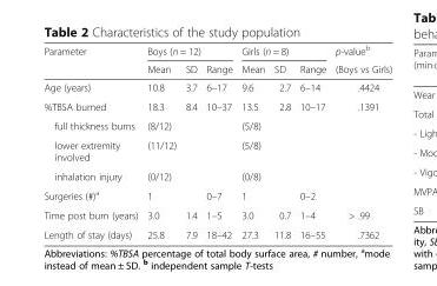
<table><thead><tr><td rowspan="2">Parameter</td><td colspan="3">Boys (n = 12)</td><td colspan="3">Girls (n = 8)</td><td rowspan="2">p-value<sup>b</sup> (Boys vs Girls)</td></tr><tr><td>Mean</td><td>SD</td><td>Range</td><td>Mean</td><td>SD</td><td>Range</td></tr></thead><tbody><tr><td>Age (years)</td><td>10.8</td><td>3.7</td><td>6–17</td><td>9.6</td><td>2.7</td><td>6–14</td><td>.4424</td></tr><tr><td>%TBSA burned</td><td>18.3</td><td>8.4</td><td>10–37</td><td>13.5</td><td>2.8</td><td>10–17</td><td>.1391</td></tr><tr><td>full thickness burns</td><td>(8/12)</td><td></td><td></td><td>(5/8)</td><td></td><td></td><td></td></tr><tr><td>lower extremity involved</td><td>(11/12)</td><td></td><td></td><td>(5/8)</td><td></td><td></td><td></td></tr><tr><td>inhalation injury</td><td>(0/12)</td><td></td><td></td><td>(0/8)</td><td></td><td></td><td></td></tr><tr><td>Surgeries (#)<sup>a</sup></td><td>1</td><td></td><td>0–7</td><td>1</td><td></td><td>0–2</td><td></td></tr><tr><td>Time post burn (years)</td><td>3.0</td><td>1.4</td><td>1–5</td><td>3.0</td><td>0.7</td><td>1–4</td><td>&gt; .99</td></tr><tr><td>Length of stay (days)</td><td>25.8</td><td>7.9</td><td>18–42</td><td>27.3</td><td>11.8</td><td>16–55</td><td>.7362</td></tr></tbody></table>